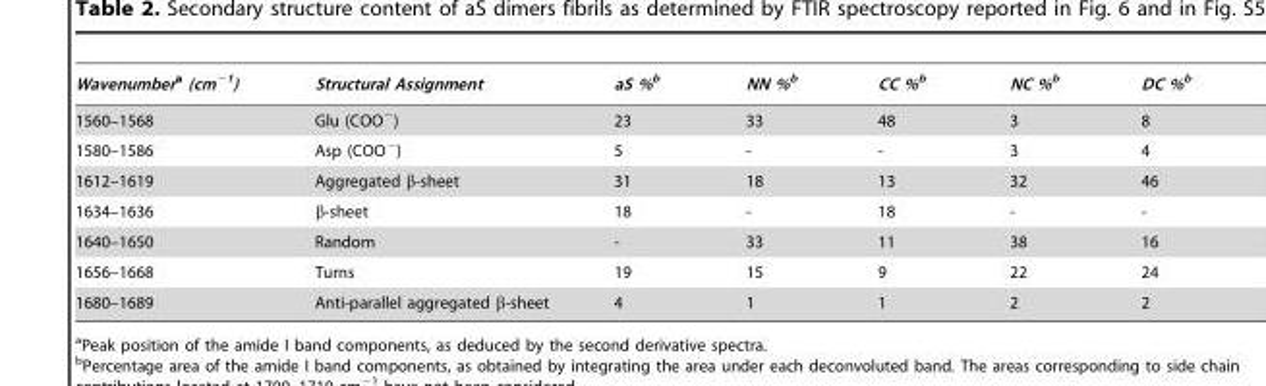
<table><thead><tr><td>Wavenumbera (cm<sup>−1</sup>)</td><td>Structural Assignment</td><td>aS %b</td><td>NN %b</td><td>CC %b</td><td>NC %b</td><td>DC %b</td></tr></thead><tbody><tr><td>1560–1568</td><td>Glu (COO<sup>−</sup>)</td><td>23</td><td>33</td><td>48</td><td>3</td><td>8</td></tr><tr><td>1580–1586</td><td>Asp (COO<sup>−</sup>)</td><td>5</td><td>-</td><td>-</td><td>3</td><td>4</td></tr><tr><td>1612–1619</td><td>Aggregated β-sheet</td><td>31</td><td>18</td><td>13</td><td>32</td><td>46</td></tr><tr><td>1634–1636</td><td>β-sheet</td><td>18</td><td>-</td><td>18</td><td>-</td><td>-</td></tr><tr><td>1640–1650</td><td>Random</td><td>-</td><td>33</td><td>11</td><td>38</td><td>16</td></tr><tr><td>1656–1668</td><td>Turns</td><td>19</td><td>15</td><td>9</td><td>22</td><td>24</td></tr><tr><td>1680–1689</td><td>Anti-parallel aggregated β-sheet</td><td>4</td><td>1</td><td>1</td><td>2</td><td>2</td></tr></tbody></table>